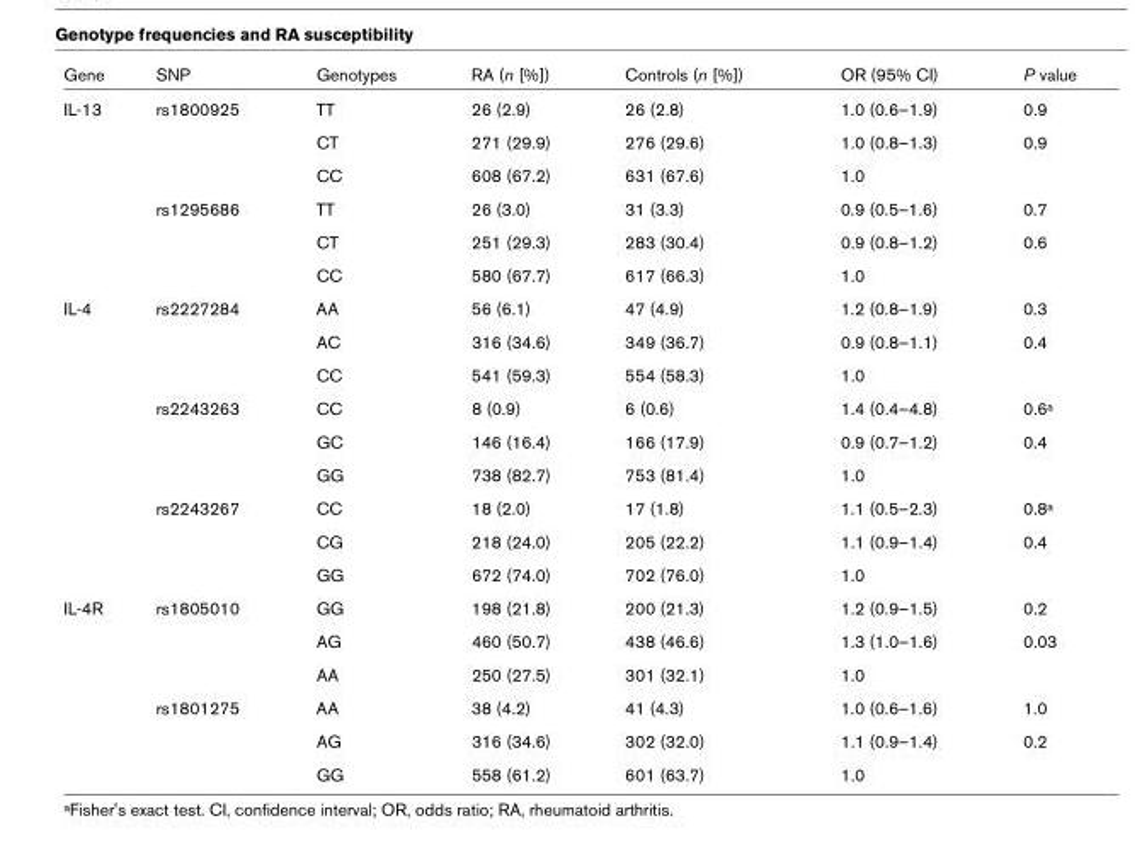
<table><thead><tr><td>Gene</td><td>SNP</td><td>Genotypes</td><td>RA (n [%])</td><td>Controls (n [%])</td><td>OR (95% CI)</td><td>P value</td></tr></thead><tbody><tr><td rowspan="6">IL-13</td><td>rs1800925</td><td>TT</td><td>26 (2.9)</td><td>26 (2.8)</td><td>1.0 (0.6–1.9)</td><td>0.9</td></tr><tr><td></td><td>CT</td><td>271 (29.9)</td><td>276 (29.6)</td><td>1.0 (0.8–1.3)</td><td>0.9</td></tr><tr><td></td><td>CC</td><td>608 (67.2)</td><td>631 (67.6)</td><td>1.0</td><td></td></tr><tr><td>rs1295686</td><td>TT</td><td>26 (3.0)</td><td>31 (3.3)</td><td>0.9 (0.5–1.6)</td><td>0.7</td></tr><tr><td></td><td>CT</td><td>251 (29.3)</td><td>283 (30.4)</td><td>0.9 (0.8–1.2)</td><td>0.6</td></tr><tr><td></td><td>CC</td><td>580 (67.7)</td><td>617 (66.3)</td><td>1.0</td><td></td></tr><tr><td rowspan="9">IL-4</td><td>rs2227284</td><td>AA</td><td>56 (6.1)</td><td>47 (4.9)</td><td>1.2 (0.8–1.9)</td><td>0.3</td></tr><tr><td></td><td>AC</td><td>316 (34.6)</td><td>349 (36.7)</td><td>0.9 (0.8–1.1)</td><td>0.4</td></tr><tr><td></td><td>CC</td><td>541 (59.3)</td><td>554 (58.3)</td><td>1.0</td><td></td></tr><tr><td>rs2243263</td><td>CC</td><td>8 (0.9)</td><td>6 (0.6)</td><td>1.4 (0.4–4.8)</td><td>0.6<sup>a</sup></td></tr><tr><td></td><td>GC</td><td>146 (16.4)</td><td>166 (17.9)</td><td>0.9 (0.7–1.2)</td><td>0.4</td></tr><tr><td></td><td>GG</td><td>738 (82.7)</td><td>753 (81.4)</td><td>1.0</td><td></td></tr><tr><td>rs2243267</td><td>CC</td><td>18 (2.0)</td><td>17 (1.8)</td><td>1.1 (0.5–2.3)</td><td>0.8<sup>a</sup></td></tr><tr><td></td><td>CG</td><td>218 (24.0)</td><td>205 (22.2)</td><td>1.1 (0.9–1.4)</td><td>0.4</td></tr><tr><td></td><td>GG</td><td>672 (74.0)</td><td>702 (76.0)</td><td>1.0</td><td></td></tr><tr><td rowspan="6">IL-4R</td><td>rs1805010</td><td>GG</td><td>198 (21.8)</td><td>200 (21.3)</td><td>1.2 (0.9–1.5)</td><td>0.2</td></tr><tr><td></td><td>AG</td><td>460 (50.7)</td><td>438 (46.6)</td><td>1.3 (1.0–1.6)</td><td>0.03</td></tr><tr><td></td><td>AA</td><td>250 (27.5)</td><td>301 (32.1)</td><td>1.0</td><td></td></tr><tr><td>rs1801275</td><td>AA</td><td>38 (4.2)</td><td>41 (4.3)</td><td>1.0 (0.6–1.6)</td><td>1.0</td></tr><tr><td></td><td>AG</td><td>316 (34.6)</td><td>302 (32.0)</td><td>1.1 (0.9–1.4)</td><td>0.2</td></tr><tr><td></td><td>GG</td><td>558 (61.2)</td><td>601 (63.7)</td><td>1.0</td><td></td></tr></tbody></table>